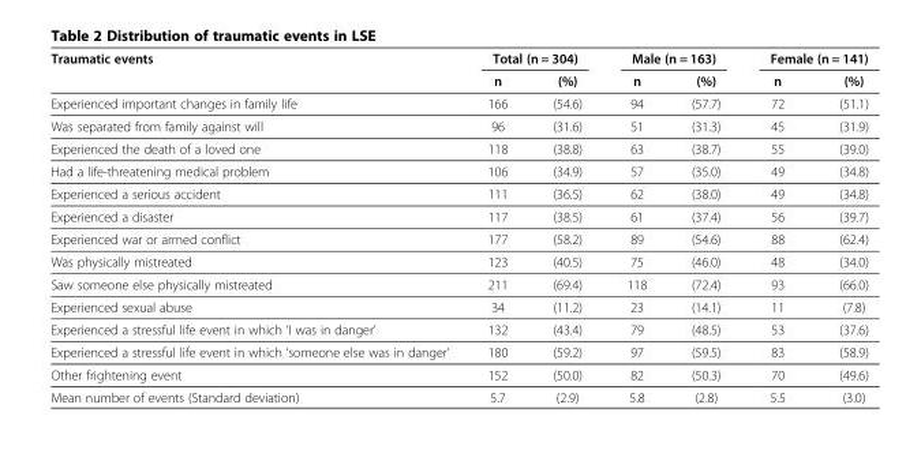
<table><thead><tr><td rowspan="2">Traumatic events</td><td colspan="2">Total (n = 304)</td><td colspan="2">Male (n = 163)</td><td colspan="2">Female (n = 141)</td></tr><tr><td>n</td><td>(%)</td><td>n</td><td>(%)</td><td>n</td><td>(%)</td></tr></thead><tbody><tr><td>Experienced important changes in family life</td><td>166</td><td>(54.6)</td><td>94</td><td>(57.7)</td><td>72</td><td>(51.1)</td></tr><tr><td>Was separated from family against will</td><td>96</td><td>(31.6)</td><td>51</td><td>(31.3)</td><td>45</td><td>(31.9)</td></tr><tr><td>Experienced the death of a loved one</td><td>118</td><td>(38.8)</td><td>63</td><td>(38.7)</td><td>55</td><td>(39.0)</td></tr><tr><td>Had a life-threatening medical problem</td><td>106</td><td>(34.9)</td><td>57</td><td>(35.0)</td><td>49</td><td>(34.8)</td></tr><tr><td>Experienced a serious accident</td><td>111</td><td>(36.5)</td><td>62</td><td>(38.0)</td><td>49</td><td>(34.8)</td></tr><tr><td>Experienced a disaster</td><td>117</td><td>(38.5)</td><td>61</td><td>(37.4)</td><td>56</td><td>(39.7)</td></tr><tr><td>Experienced war or armed conflict</td><td>177</td><td>(58.2)</td><td>89</td><td>(54.6)</td><td>88</td><td>(62.4)</td></tr><tr><td>Was physically mistreated</td><td>123</td><td>(40.5)</td><td>75</td><td>(46.0)</td><td>48</td><td>(34.0)</td></tr><tr><td>Saw someone else physically mistreated</td><td>211</td><td>(69.4)</td><td>118</td><td>(72.4)</td><td>93</td><td>(66.0)</td></tr><tr><td>Experienced sexual abuse</td><td>34</td><td>(11.2)</td><td>23</td><td>(14.1)</td><td>11</td><td>(7.8)</td></tr><tr><td>Experienced a stressful life event in which ‘I was in danger’</td><td>132</td><td>(43.4)</td><td>79</td><td>(48.5)</td><td>53</td><td>(37.6)</td></tr><tr><td>Experienced a stressful life event in which ‘someone else was in danger’</td><td>180</td><td>(59.2)</td><td>97</td><td>(59.5)</td><td>83</td><td>(58.9)</td></tr><tr><td>Other frightening event</td><td>152</td><td>(50.0)</td><td>82</td><td>(50.3)</td><td>70</td><td>(49.6)</td></tr><tr><td>Mean number of events (Standard deviation)</td><td>5.7</td><td>(2.9)</td><td>5.8</td><td>(2.8)</td><td>5.5</td><td>(3.0)</td></tr></tbody></table>